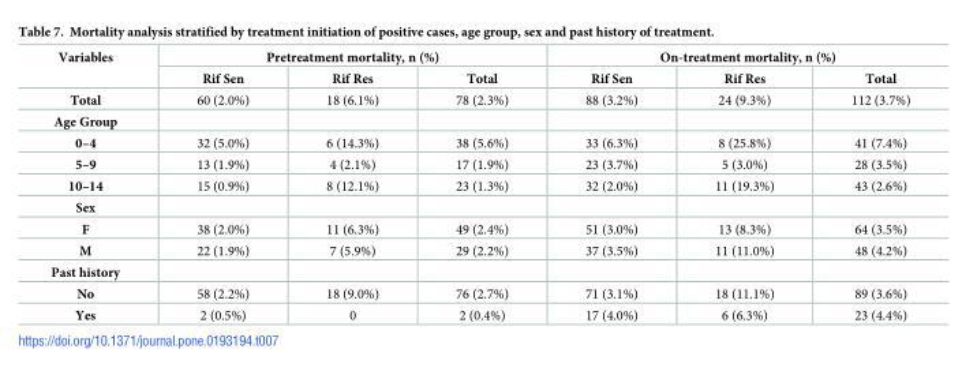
<table><thead><tr><td rowspan="2">Variables</td><td colspan="3">Pretreatment mortality, n (%)</td><td colspan="3">On-treatment mortality, n (%)</td></tr><tr><td>Rif Sen</td><td>Rif Res</td><td>Total</td><td>Rif Sen</td><td>Rif Res</td><td>Total</td></tr></thead><tbody><tr><td>Total</td><td>60 (2.0%)</td><td>18 (6.1%)</td><td>78 (2.3%)</td><td>88 (3.2%)</td><td>24 (9.3%)</td><td>112 (3.7%)</td></tr><tr><td colspan="7">Age Group</td></tr><tr><td>0–4</td><td>32 (5.0%)</td><td>6 (14.3%)</td><td>38 (5.6%)</td><td>33 (6.3%)</td><td>8 (25.8%)</td><td>41 (7.4%)</td></tr><tr><td>5–9</td><td>13 (1.9%)</td><td>4 (2.1%)</td><td>17 (1.9%)</td><td>23 (3.7%)</td><td>5 (3.0%)</td><td>28 (3.5%)</td></tr><tr><td>10–14</td><td>15 (0.9%)</td><td>8 (12.1%)</td><td>23 (1.3%)</td><td>32 (2.0%)</td><td>11 (19.3%)</td><td>43 (2.6%)</td></tr><tr><td colspan="7">Sex</td></tr><tr><td>F</td><td>38 (2.0%)</td><td>11 (6.3%)</td><td>49 (2.4%)</td><td>51 (3.0%)</td><td>13 (8.3%)</td><td>64 (3.5%)</td></tr><tr><td>M</td><td>22 (1.9%)</td><td>7 (5.9%)</td><td>29 (2.2%)</td><td>37 (3.5%)</td><td>11 (11.0%)</td><td>48 (4.2%)</td></tr><tr><td colspan="7">Past history</td></tr><tr><td>No</td><td>58 (2.2%)</td><td>18 (9.0%)</td><td>76 (2.7%)</td><td>71 (3.1%)</td><td>18 (11.1%)</td><td>89 (3.6%)</td></tr><tr><td>Yes</td><td>2 (0.5%)</td><td>0</td><td>2 (0.4%)</td><td>17 (4.0%)</td><td>6 (6.3%)</td><td>23 (4.4%)</td></tr></tbody></table>